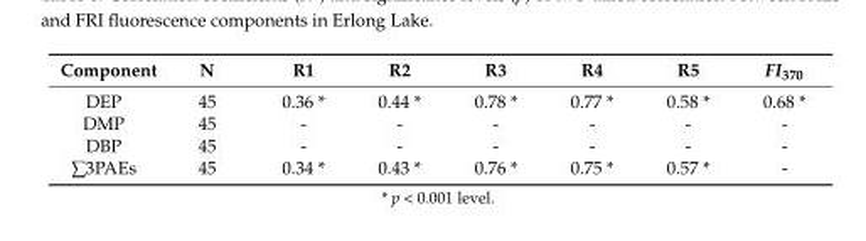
<table><thead><tr><td>Component</td><td>N</td><td>R1</td><td>R2</td><td>R3</td><td>R4</td><td>R5</td><td>FI<sub>370</sub></td></tr></thead><tbody><tr><td>DEP</td><td>45</td><td>0.36 *</td><td>0.44 *</td><td>0.78 *</td><td>0.77 *</td><td>0.58 *</td><td>0.68 *</td></tr><tr><td>DMP</td><td>45</td><td>-</td><td>-</td><td>-</td><td>-</td><td>-</td><td>-</td></tr><tr><td>DBP</td><td>45</td><td>-</td><td>-</td><td>-</td><td>-</td><td>-</td><td>-</td></tr><tr><td>∑3PAEs</td><td>45</td><td>0.34 *</td><td>0.43 *</td><td>0.76 *</td><td>0.75 *</td><td>0.57 *</td><td>-</td></tr></tbody></table>